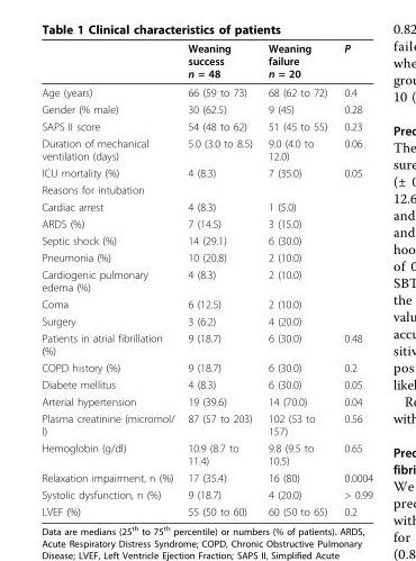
<table><thead><tr><td></td><td>Weaning success n = 48</td><td>Weaning failure n = 20</td><td>P</td></tr></thead><tbody><tr><td>Age (years)</td><td>66 (59 to 73)</td><td>68 (62 to 72)</td><td>0.4</td></tr><tr><td>Gender (% male)</td><td>30 (62.5)</td><td>9 (45)</td><td>0.28</td></tr><tr><td>SAPS II score</td><td>54 (48 to 62)</td><td>51 (45 to 55)</td><td>0.23</td></tr><tr><td>Duration of mechanical ventilation (days)</td><td>5.0 (3.0 to 8.5)</td><td>9.0 (4.0 to 12.0)</td><td>0.06</td></tr><tr><td>ICU mortality (%)</td><td>4 (8.3)</td><td>7 (35.0)</td><td>0.05</td></tr><tr><td colspan="4">Reasons for intubation</td></tr><tr><td>Cardiac arrest</td><td>4 (8.3)</td><td>1 (5.0)</td><td></td></tr><tr><td>ARDS (%)</td><td>7 (14.5)</td><td>3 (15.0)</td><td></td></tr><tr><td>Septic shock (%)</td><td>14 (29.1)</td><td>6 (30.0)</td><td></td></tr><tr><td>Pneumonia (%)</td><td>10 (20.8)</td><td>2 (10.0)</td><td></td></tr><tr><td>Cardiogenic pulmonary edema (%)</td><td>4 (8.3)</td><td>2 (10.0)</td><td></td></tr><tr><td>Coma</td><td>6 (12.5)</td><td>2 (10.0)</td><td></td></tr><tr><td>Surgery</td><td>3 (6.2)</td><td>4 (20.0)</td><td></td></tr><tr><td>Patients in atrial fibrillation (%)</td><td>9 (18.7)</td><td>6 (30.0)</td><td>0.48</td></tr><tr><td>COPD history (%)</td><td>9 (18.7)</td><td>6 (30.0)</td><td>0.2</td></tr><tr><td>Diabete mellitus</td><td>4 (8.3)</td><td>6 (30.0)</td><td>0.05</td></tr><tr><td>Arterial hypertension</td><td>19 (39.6)</td><td>14 (70.0)</td><td>0.04</td></tr><tr><td>Plasma creatinine (micromol/ l)</td><td>87 (57 to 203)</td><td>102 (53 to 157)</td><td>0.56</td></tr><tr><td>Hemoglobin (g/dl)</td><td>10.9 (8.7 to 11.4)</td><td>9.8 (9.5 to 10.5)</td><td>0.65</td></tr><tr><td>Relaxation impairment, n (%)</td><td>17 (35.4)</td><td>16 (80)</td><td>0.0004</td></tr><tr><td>Systolic dysfunction, n (%)</td><td>9 (18.7)</td><td>4 (20.0)</td><td>&gt; 0.99</td></tr><tr><td>LVEF (%)</td><td>55 (50 to 60)</td><td>60 (50 to 65)</td><td>0.2</td></tr></tbody></table>